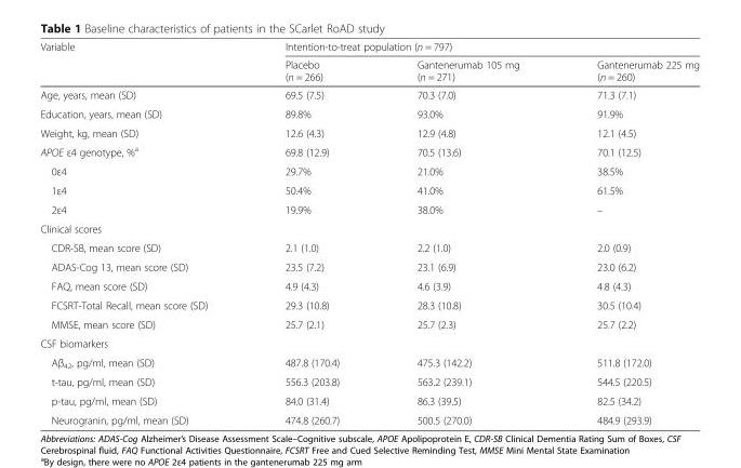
<table><thead><tr><td rowspan="2">Variable</td><td colspan="3">Intention-to-treat population (n = 797)</td></tr><tr><td>Placebo (n = 266)</td><td>Gantenerumab 105 mg (n = 271)</td><td>Gantenerumab 225 mg (n = 260)</td></tr></thead><tbody><tr><td>Age, years, mean (SD)</td><td>69.5 (7.5)</td><td>70.3 (7.0)</td><td>71.3 (7.1)</td></tr><tr><td>Education, years, mean (SD)</td><td>89.8%</td><td>93.0%</td><td>91.9%</td></tr><tr><td>Weight, kg, mean (SD)</td><td>12.6 (4.3)</td><td>12.9 (4.8)</td><td>12.1 (4.5)</td></tr><tr><td>APOE ε4 genotype, %<sup>a</sup></td><td>69.8 (12.9)</td><td>70.5 (13.6)</td><td>70.1 (12.5)</td></tr><tr><td>0ε4</td><td>29.7%</td><td>21.0%</td><td>38.5%</td></tr><tr><td>1ε4</td><td>50.4%</td><td>41.0%</td><td>61.5%</td></tr><tr><td>2ε4</td><td>19.9%</td><td>38.0%</td><td>–</td></tr><tr><td colspan="4">Clinical scores</td></tr><tr><td>CDR-SB, mean score (SD)</td><td>2.1 (1.0)</td><td>2.2 (1.0)</td><td>2.0 (0.9)</td></tr><tr><td>ADAS-Cog 13, mean score (SD)</td><td>23.5 (7.2)</td><td>23.1 (6.9)</td><td>23.0 (6.2)</td></tr><tr><td>FAQ, mean score (SD)</td><td>4.9 (4.3)</td><td>4.6 (3.9)</td><td>4.8 (4.3)</td></tr><tr><td>FCSRT-Total Recall, mean score (SD)</td><td>29.3 (10.8)</td><td>28.3 (10.8)</td><td>30.5 (10.4)</td></tr><tr><td>MMSE, mean score (SD)</td><td>25.7 (2.1)</td><td>25.7 (2.3)</td><td>25.7 (2.2)</td></tr><tr><td colspan="4">CSF biomarkers</td></tr><tr><td>Aβ<sub>42</sub>, pg/ml, mean (SD)</td><td>487.8 (170.4)</td><td>475.3 (142.2)</td><td>511.8 (172.0)</td></tr><tr><td>t-tau, pg/ml, mean (SD)</td><td>556.3 (203.8)</td><td>563.2 (239.1)</td><td>544.5 (220.5)</td></tr><tr><td>p-tau, pg/ml, mean (SD)</td><td>84.0 (31.4)</td><td>86.3 (39.5)</td><td>82.5 (34.2)</td></tr><tr><td>Neurogranin, pg/ml, mean (SD)</td><td>474.8 (260.7)</td><td>500.5 (270.0)</td><td>484.9 (293.9)</td></tr></tbody></table>